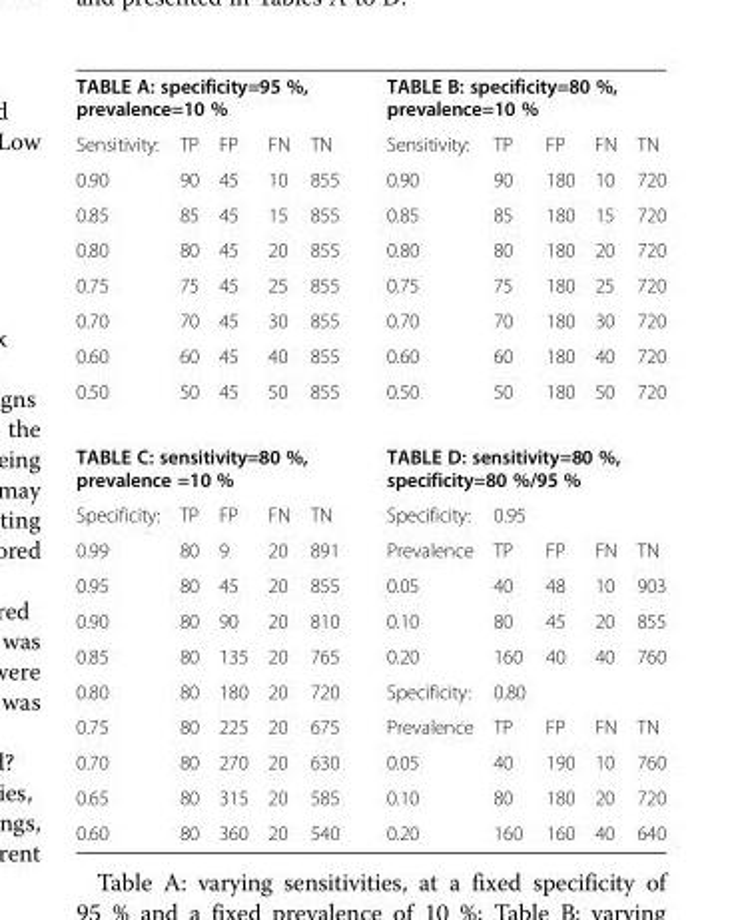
<table><tbody><tr><td colspan="5">TABLE A: specificity=95 %, prevalence=10 %</td><td colspan="5">TABLE B: specificity=80 %, prevalence=10 %</td></tr><tr><td>Sensitivity:</td><td>TP</td><td>FP</td><td>FN</td><td>TN</td><td>Sensitivity:</td><td>TP</td><td>FP</td><td>FN</td><td>TN</td></tr><tr><td>0.90</td><td>90</td><td>45</td><td>10</td><td>855</td><td>0.90</td><td>90</td><td>180</td><td>10</td><td>720</td></tr><tr><td>0.85</td><td>85</td><td>45</td><td>15</td><td>855</td><td>0.85</td><td>85</td><td>180</td><td>15</td><td>720</td></tr><tr><td>0.80</td><td>80</td><td>45</td><td>20</td><td>855</td><td>0.80</td><td>80</td><td>180</td><td>20</td><td>720</td></tr><tr><td>0.75</td><td>75</td><td>45</td><td>25</td><td>855</td><td>0.75</td><td>75</td><td>180</td><td>25</td><td>720</td></tr><tr><td>0.70</td><td>70</td><td>45</td><td>30</td><td>855</td><td>0.70</td><td>70</td><td>180</td><td>30</td><td>720</td></tr><tr><td>0.60</td><td>60</td><td>45</td><td>40</td><td>855</td><td>0.60</td><td>60</td><td>180</td><td>40</td><td>720</td></tr><tr><td>0.50</td><td>50</td><td>45</td><td>50</td><td>855</td><td>0.50</td><td>50</td><td>180</td><td>50</td><td>720</td></tr><tr><td colspan="5">TABLE C: sensitivity=80 %, prevalence =10 %</td><td colspan="5">TABLE D: sensitivity=80 %, specificity=80 %/95 %</td></tr><tr><td>Specificity:</td><td>TP</td><td>FP</td><td>FN</td><td>TN</td><td>Specificity:</td><td>0.95</td><td></td><td></td><td></td></tr><tr><td>0.99</td><td>80</td><td>9</td><td>20</td><td>891</td><td>Prevalence</td><td>TP</td><td>FP</td><td>FN</td><td>TN</td></tr><tr><td>0.95</td><td>80</td><td>45</td><td>20</td><td>855</td><td>0.05</td><td>40</td><td>48</td><td>10</td><td>903</td></tr><tr><td>0.90</td><td>80</td><td>90</td><td>20</td><td>810</td><td>0.10</td><td>80</td><td>45</td><td>20</td><td>855</td></tr><tr><td>0.85</td><td>80</td><td>135</td><td>20</td><td>765</td><td>0.20</td><td>160</td><td>40</td><td>40</td><td>760</td></tr><tr><td>0.80</td><td>80</td><td>180</td><td>20</td><td>720</td><td>Specificity:</td><td>0.80</td><td></td><td></td><td></td></tr><tr><td>0.75</td><td>80</td><td>225</td><td>20</td><td>675</td><td>Prevalence</td><td>TP</td><td>FP</td><td>FN</td><td>TN</td></tr><tr><td>0.70</td><td>80</td><td>270</td><td>20</td><td>630</td><td>0.05</td><td>40</td><td>190</td><td>10</td><td>760</td></tr><tr><td>0.65</td><td>80</td><td>315</td><td>20</td><td>585</td><td>0.10</td><td>80</td><td>180</td><td>20</td><td>720</td></tr><tr><td>0.60</td><td>80</td><td>360</td><td>20</td><td>540</td><td>0.20</td><td>160</td><td>160</td><td>40</td><td>640</td></tr></tbody></table>